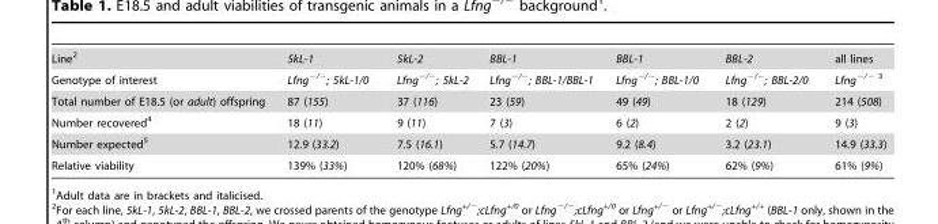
<table><tbody><tr><td>Line<sup>2</sup></td><td>5kL-1</td><td>5kL-2</td><td>BBL-1</td><td>BBL-1</td><td>BBL-2</td><td>all lines</td></tr><tr><td>Genotype of interest</td><td>Lfng<sup>−/−</sup>; 5kL-1/0</td><td>Lfng<sup>−/−</sup>; 5kL-2</td><td>Lfng<sup>−/−</sup>; BBL-1/BBL-1</td><td>Lfng<sup>−/−</sup>; BBL-1/0</td><td>Lfng<sup>−/−</sup>; BBL-2/0</td><td>Lfng<sup>−/−</sup> 3</td></tr><tr><td>Total number of E18.5 (or adult) offspring</td><td>87 (155)</td><td>37 (116)</td><td>23 (59)</td><td>49 (49)</td><td>18 (129)</td><td>214 (508)</td></tr><tr><td>Number recovered<sup>4</sup></td><td>18 (11)</td><td>9 (11)</td><td>7 (3)</td><td>6 (2)</td><td>2 (2)</td><td>9 (3)</td></tr><tr><td>Number expected<sup>5</sup></td><td>12.9 (33.2)</td><td>7.5 (16.1)</td><td>5.7 (14.7)</td><td>9.2 (8.4)</td><td>3.2 (23.1)</td><td>14.9 (33.3)</td></tr><tr><td>Relative viability</td><td>139% (33%)</td><td>120% (68%)</td><td>122% (20%)</td><td>65% (24%)</td><td>62% (9%)</td><td>61% (9%)</td></tr></tbody></table>